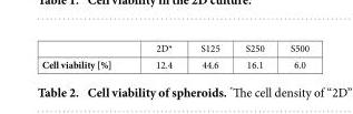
<table><thead><tr><td></td><td>2D*</td><td>S125</td><td>S250</td><td>S500</td></tr></thead><tbody><tr><td>Cell viability [%]</td><td>12.4</td><td>44.6</td><td>16.1</td><td>6.0</td></tr></tbody></table>